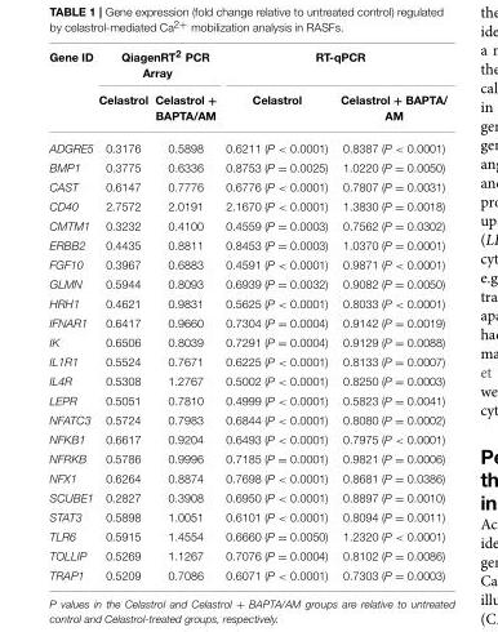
<table><thead><tr><td rowspan="2">Gene ID</td><td colspan="2">QiagenRT<sup>2</sup> PCR Array</td><td colspan="2">RT-qPCR</td></tr><tr><td>Celastrol</td><td>Celastrol + BAPTA/AM</td><td>Celastrol</td><td>Celastrol + BAPTA/ AM</td></tr></thead><tbody><tr><td>ADGRE5</td><td>0.3176</td><td>0.5898</td><td>0.6211 (P &lt; 0.0001)</td><td>0.8387 (P &lt; 0.0001)</td></tr><tr><td>BMP1</td><td>0.3775</td><td>0.6336</td><td>0.8753 (P = 0.0025)</td><td>1.0220 (P = 0.0050)</td></tr><tr><td>CAST</td><td>0.6147</td><td>0.7776</td><td>0.6776 (P &lt; 0.0001)</td><td>0.7807 (P = 0.0031)</td></tr><tr><td>CD40</td><td>2.7572</td><td>2.0191</td><td>2.1670 (P &lt; 0.0001)</td><td>1.3830 (P = 0.0018)</td></tr><tr><td>CMTM1</td><td>0.3232</td><td>0.4100</td><td>0.4559 (P = 0.0003)</td><td>0.7562 (P = 0.0302)</td></tr><tr><td>ERBB2</td><td>0.4435</td><td>0.8811</td><td>0.8453 (P = 0.0003)</td><td>1.0370 (P = 0.0001)</td></tr><tr><td>FGF10</td><td>0.3967</td><td>0.6883</td><td>0.4591 (P &lt; 0.0001)</td><td>0.9871 (P &lt; 0.0001)</td></tr><tr><td>GLMN</td><td>0.5944</td><td>0.8093</td><td>0.6939 (P = 0.0032)</td><td>0.9082 (P = 0.0050)</td></tr><tr><td>HRH1</td><td>0.4621</td><td>0.9831</td><td>0.5625 (P &lt; 0.0001)</td><td>0.8033 (P &lt; 0.0001)</td></tr><tr><td>IFNAR1</td><td>0.6417</td><td>0.9660</td><td>0.7304 (P = 0.0004)</td><td>0.9142 (P = 0.0019)</td></tr><tr><td>IK</td><td>0.6506</td><td>0.8039</td><td>0.7291 (P = 0.0004)</td><td>0.9129 (P = 0.0088)</td></tr><tr><td>IL1R1</td><td>0.5524</td><td>0.7671</td><td>0.6225 (P &lt; 0.0001)</td><td>0.8133 (P = 0.0007)</td></tr><tr><td>IL4R</td><td>0.5308</td><td>1.2767</td><td>0.5002 (P &lt; 0.0001)</td><td>0.8250 (P = 0.0003)</td></tr><tr><td>LEPR</td><td>0.5051</td><td>0.7810</td><td>0.4999 (P &lt; 0.0001)</td><td>0.5823 (P = 0.0041)</td></tr><tr><td>NFATC3</td><td>0.5724</td><td>0.7983</td><td>0.6844 (P &lt; 0.0001)</td><td>0.8080 (P = 0.0002)</td></tr><tr><td>NFKB1</td><td>0.6617</td><td>0.9204</td><td>0.6493 (P &lt; 0.0001)</td><td>0.7975 (P &lt; 0.0001)</td></tr><tr><td>NFRKB</td><td>0.5786</td><td>0.9996</td><td>0.7185 (P = 0.0001)</td><td>0.9821 (P = 0.0006)</td></tr><tr><td>NFX1</td><td>0.6264</td><td>0.8874</td><td>0.7698 (P &lt; 0.0001)</td><td>0.8681 (P = 0.0386)</td></tr><tr><td>SCUBE1</td><td>0.2827</td><td>0.3908</td><td>0.6950 (P &lt; 0.0001)</td><td>0.8897 (P = 0.0010)</td></tr><tr><td>STAT3</td><td>0.5898</td><td>1.0051</td><td>0.6101 (P &lt; 0.0001)</td><td>0.8094 (P = 0.0011)</td></tr><tr><td>TLR6</td><td>0.5915</td><td>1.4554</td><td>0.6660 (P = 0.0050)</td><td>1.2320 (P &lt; 0.0001)</td></tr><tr><td>TOLLIP</td><td>0.5269</td><td>1.1267</td><td>0.7076 (P = 0.0004)</td><td>0.8102 (P = 0.0086)</td></tr><tr><td>TRAP1</td><td>0.5209</td><td>0.7086</td><td>0.6071 (P &lt; 0.0001)</td><td>0.7303 (P = 0.0003)</td></tr></tbody></table>